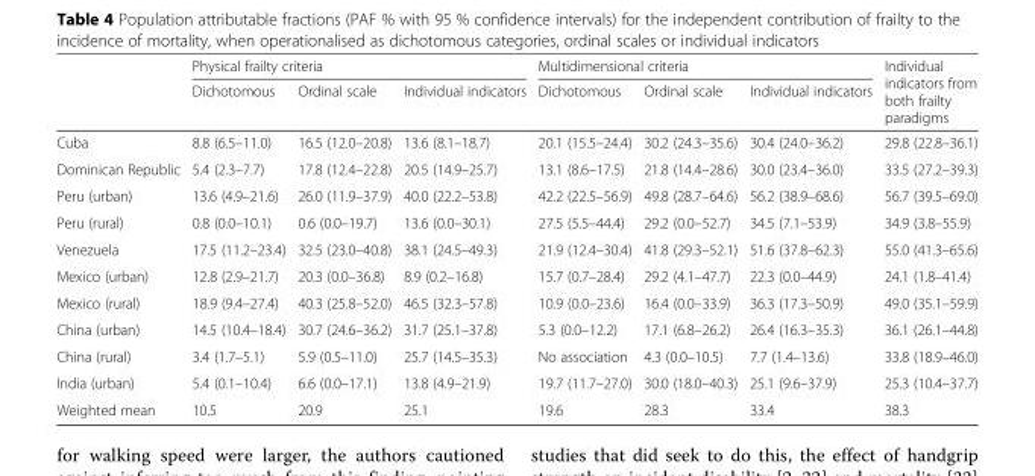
<table><thead><tr><td rowspan="2"></td><td colspan="3">Physical frailty criteria</td><td colspan="3">Multidimensional criteria</td><td rowspan="2">Individual indicators from both frailty paradigms</td></tr><tr><td>Dichotomous</td><td>Ordinal scale</td><td>Individual indicators</td><td>Dichotomous</td><td>Ordinal scale</td><td>Individual indicators</td></tr></thead><tbody><tr><td>Cuba</td><td>8.8 (6.5–11.0)</td><td>16.5 (12.0–20.8)</td><td>13.6 (8.1–18.7)</td><td>20.1 (15.5–24.4)</td><td>30.2 (24.3–35.6)</td><td>30.4 (24.0–36.2)</td><td>29.8 (22.8–36.1)</td></tr><tr><td>Dominican Republic</td><td>5.4 (2.3–7.7)</td><td>17.8 (12.4–22.8)</td><td>20.5 (14.9–25.7)</td><td>13.1 (8.6–17.5)</td><td>21.8 (14.4–28.6)</td><td>30.0 (23.4–36.0)</td><td>33.5 (27.2–39.3)</td></tr><tr><td>Peru (urban)</td><td>13.6 (4.9–21.6)</td><td>26.0 (11.9–37.9)</td><td>40.0 (22.2–53.8)</td><td>42.2 (22.5–56.9)</td><td>49.8 (28.7–64.6)</td><td>56.2 (38.9–68.6)</td><td>56.7 (39.5–69.0)</td></tr><tr><td>Peru (rural)</td><td>0.8 (0.0–10.1)</td><td>0.6 (0.0–19.7)</td><td>13.6 (0.0–30.1)</td><td>27.5 (5.5–44.4)</td><td>29.2 (0.0–52.7)</td><td>34.5 (7.1–53.9)</td><td>34.9 (3.8–55.9)</td></tr><tr><td>Venezuela</td><td>17.5 (11.2–23.4)</td><td>32.5 (23.0–40.8)</td><td>38.1 (24.5–49.3)</td><td>21.9 (12.4–30.4)</td><td>41.8 (29.3–52.1)</td><td>51.6 (37.8–62.3)</td><td>55.0 (41.3–65.6)</td></tr><tr><td>Mexico (urban)</td><td>12.8 (2.9–21.7)</td><td>20.3 (0.0–36.8)</td><td>8.9 (0.2–16.8)</td><td>15.7 (0.7–28.4)</td><td>29.2 (4.1–47.7)</td><td>22.3 (0.0–44.9)</td><td>24.1 (1.8–41.4)</td></tr><tr><td>Mexico (rural)</td><td>18.9 (9.4–27.4)</td><td>40.3 (25.8–52.0)</td><td>46.5 (32.3–57.8)</td><td>10.9 (0.0–23.6)</td><td>16.4 (0.0–33.9)</td><td>36.3 (17.3–50.9)</td><td>49.0 (35.1–59.9)</td></tr><tr><td>China (urban)</td><td>14.5 (10.4–18.4)</td><td>30.7 (24.6–36.2)</td><td>31.7 (25.1–37.8)</td><td>5.3 (0.0–12.2)</td><td>17.1 (6.8–26.2)</td><td>26.4 (16.3–35.3)</td><td>36.1 (26.1–44.8)</td></tr><tr><td>China (rural)</td><td>3.4 (1.7–5.1)</td><td>5.9 (0.5–11.0)</td><td>25.7 (14.5–35.3)</td><td>No association</td><td>4.3 (0.0–10.5)</td><td>7.7 (1.4–13.6)</td><td>33.8 (18.9–46.0)</td></tr><tr><td>India (urban)</td><td>5.4 (0.1–10.4)</td><td>6.6 (0.0–17.1)</td><td>13.8 (4.9–21.9)</td><td>19.7 (11.7–27.0)</td><td>30.0 (18.0–40.3)</td><td>25.1 (9.6–37.9)</td><td>25.3 (10.4–37.7)</td></tr><tr><td>Weighted mean</td><td>10.5</td><td>20.9</td><td>25.1</td><td>19.6</td><td>28.3</td><td>33.4</td><td>38.3</td></tr></tbody></table>